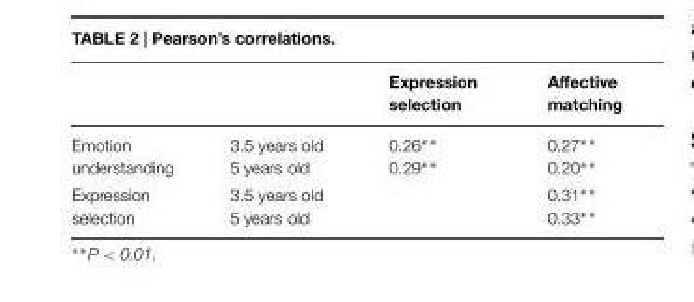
<table><thead><tr><td></td><td></td><td>Expression selection</td><td>Affective matching</td></tr></thead><tbody><tr><td>Emotion understanding</td><td>3.5 years old 5 years old</td><td>0.26∗∗ 0.29∗∗</td><td>0.27∗∗ 0.20∗∗</td></tr><tr><td>Expression selection</td><td>3.5 years old 5 years old</td><td></td><td>0.31∗∗ 0.33∗∗</td></tr></tbody></table>